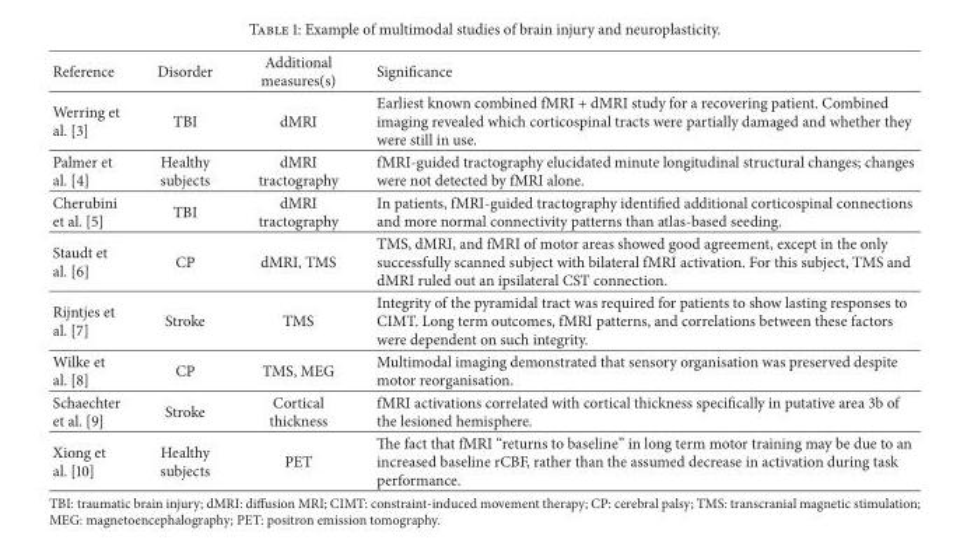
<table><thead><tr><td>Reference</td><td>Disorder</td><td>Additional measures(s)</td><td>Significance</td></tr></thead><tbody><tr><td>Werring et al. [3]</td><td>TBI</td><td>dMRI</td><td>Earliest known combined fMRI + dMRI study for a recovering patient. Combined imaging revealed which corticospinal tracts were partially damaged and whether they were still in use.</td></tr><tr><td>Palmer et al. [4]</td><td>Healthy subjects</td><td>dMRI tractography</td><td>fMRI-guided tractography elucidated minute longitudinal structural changes; changes were not detected by fMRI alone.</td></tr><tr><td>Cherubini et al. [5]</td><td>TBI</td><td>dMRI tractography</td><td>In patients, fMRI-guided tractography identified additional corticospinal connections and more normal connectivity patterns than atlas-based seeding.</td></tr><tr><td>Staudt et al. [6]</td><td>CP</td><td>dMRI, TMS</td><td>TMS, dMRI, and fMRI of motor areas showed good agreement, except in the only successfully scanned subject with bilateral fMRI activation. For this subject, TMS and dMRI ruled out an ipsilateral CST connection.</td></tr><tr><td>Rijntjes et al. [7]</td><td>Stroke</td><td>TMS</td><td>Integrity of the pyramidal tract was required for patients to show lasting responses to CIMT. Long term outcomes, fMRI patterns, and correlations between these factors were dependent on such integrity.</td></tr><tr><td>Wilke et al. [8]</td><td>CP</td><td>TMS, MEG</td><td>Multimodal imaging demonstrated that sensory organisation was preserved despite motor reorganisation.</td></tr><tr><td>Schaechter et al. [9]</td><td>Stroke</td><td>Cortical thickness</td><td>fMRI activations correlated with cortical thickness specifically in putative area 3b of the lesioned hemisphere.</td></tr><tr><td>Xiong et al. [10]</td><td>Healthy subjects</td><td>PET</td><td>The fact that fMRI “returns to baseline” in long term motor training may be due to an increased baseline rCBF, rather than the assumed decrease in activation during task performance.</td></tr></tbody></table>